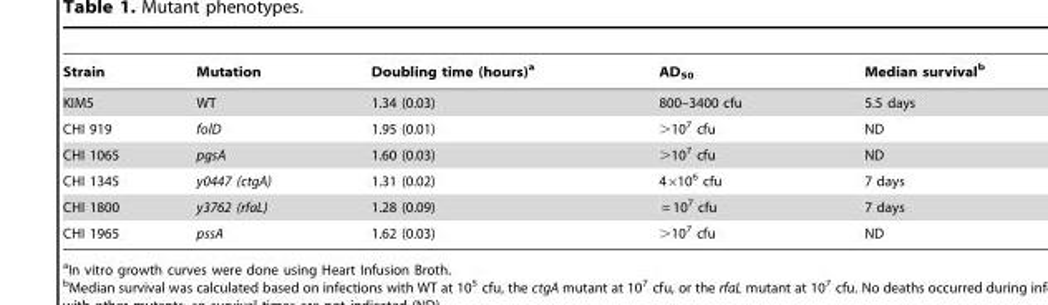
<table><thead><tr><td>Strain</td><td>Mutation</td><td>Doubling time (hours)<sup>a</sup></td><td>AD<sub>50</sub></td><td>Median survival<sup>b</sup></td></tr></thead><tbody><tr><td>KIM5</td><td>WT</td><td>1.34 (0.03)</td><td>800–3400 cfu</td><td>5.5 days</td></tr><tr><td>CHI 919</td><td>folD</td><td>1.95 (0.01)</td><td>&gt;10<sup>7</sup> cfu</td><td>ND</td></tr><tr><td>CHI 1065</td><td>pgsA</td><td>1.60 (0.03)</td><td>&gt;10<sup>7</sup> cfu</td><td>ND</td></tr><tr><td>CHI 1345</td><td>y0447 (ctgA)</td><td>1.31 (0.02)</td><td>4×10<sup>6</sup> cfu</td><td>7 days</td></tr><tr><td>CHI 1800</td><td>y3762 (rfaL)</td><td>1.28 (0.09)</td><td>= 10<sup>7</sup> cfu</td><td>7 days</td></tr><tr><td>CHI 1965</td><td>pssA</td><td>1.62 (0.03)</td><td>&gt;10<sup>7</sup> cfu</td><td>ND</td></tr></tbody></table>